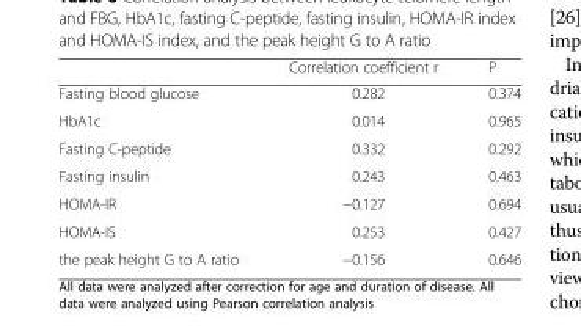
<table><thead><tr><td></td><td>Correlation coefficient r</td><td>P</td></tr></thead><tbody><tr><td>Fasting blood glucose</td><td>0.282</td><td>0.374</td></tr><tr><td>HbA1c</td><td>0.014</td><td>0.965</td></tr><tr><td>Fasting C-peptide</td><td>0.332</td><td>0.292</td></tr><tr><td>Fasting insulin</td><td>0.243</td><td>0.463</td></tr><tr><td>HOMA-IR</td><td>−0.127</td><td>0.694</td></tr><tr><td>HOMA-IS</td><td>0.253</td><td>0.427</td></tr><tr><td>the peak height G to A ratio</td><td>−0.156</td><td>0.646</td></tr></tbody></table>